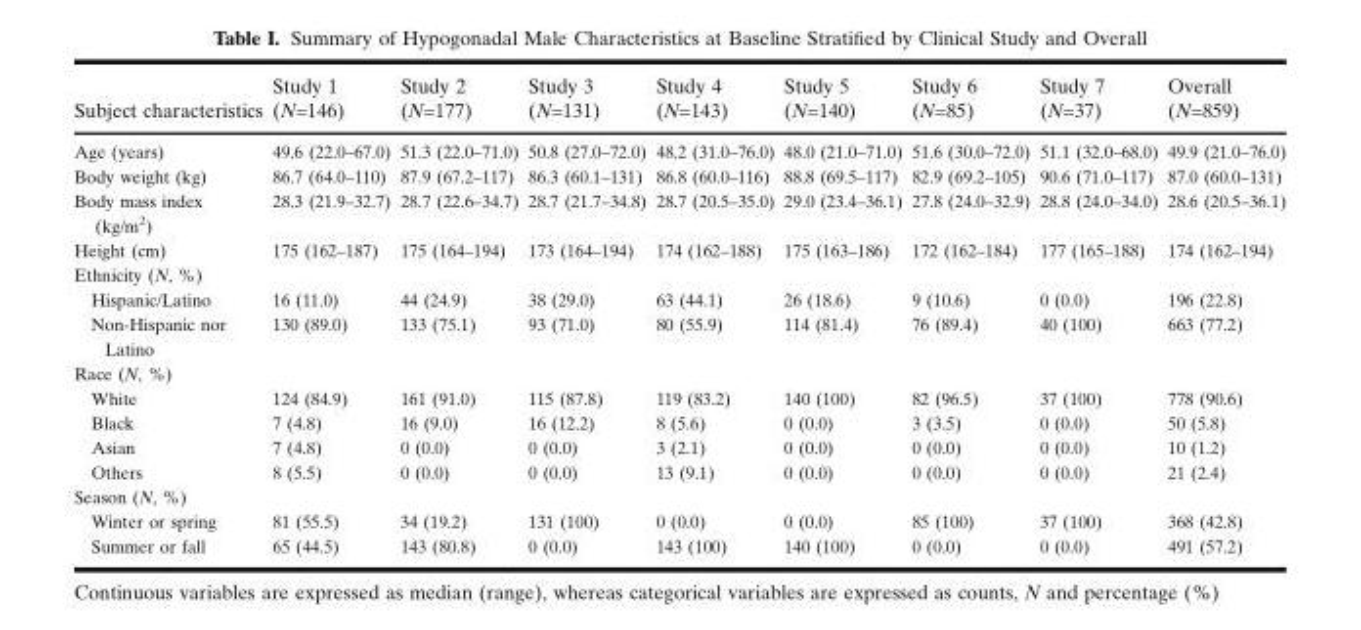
<table><thead><tr><td>Subject characteristics</td><td>Study 1 (N=146)</td><td>Study 2 (N=177)</td><td>Study 3 (N=131)</td><td>Study 4 (N=143)</td><td>Study 5 (N=140)</td><td>Study 6 (N=85)</td><td>Study 7 (N=37)</td><td>Overall (N=859)</td></tr></thead><tbody><tr><td>Age (years)</td><td>49.6 (22.0–67.0)</td><td>51.3 (22.0–71.0)</td><td>50.8 (27.0–72.0)</td><td>48.2 (31.0–76.0)</td><td>48.0 (21.0–71.0)</td><td>51.6 (30.0–72.0)</td><td>51.1 (32.0–68.0)</td><td>49.9 (21.0–76.0)</td></tr><tr><td>Body weight (kg)</td><td>86.7 (64.0–110)</td><td>87.9 (67.2–117)</td><td>86.3 (60.1–131)</td><td>86.8 (60.0–116)</td><td>88.8 (69.5–117)</td><td>82.9 (69.2–105)</td><td>90.6 (71.0–117)</td><td>87.0 (60.0–131)</td></tr><tr><td>Body mass index (kg/m<sup>2</sup>)</td><td>28.3 (21.9–32.7)</td><td>28.7 (22.6–34.7)</td><td>28.7 (21.7–34.8)</td><td>28.7 (20.5–35.0)</td><td>29.0 (23.4–36.1)</td><td>27.8 (24.0–32.9)</td><td>28.8 (24.0–34.0)</td><td>28.6 (20.5–36.1)</td></tr><tr><td>Height (cm)</td><td>175 (162–187)</td><td>175 (164–194)</td><td>173 (164–194)</td><td>174 (162–188)</td><td>175 (163–186)</td><td>172 (162–184)</td><td>177 (165–188)</td><td>174 (162–194)</td></tr><tr><td colspan="9">Ethnicity (N, %)</td></tr><tr><td>Hispanic/Latino</td><td>16 (11.0)</td><td>44 (24.9)</td><td>38 (29.0)</td><td>63 (44.1)</td><td>26 (18.6)</td><td>9 (10.6)</td><td>0 (0.0)</td><td>196 (22.8)</td></tr><tr><td>Non-Hispanic nor Latino</td><td>130 (89.0)</td><td>133 (75.1)</td><td>93 (71.0)</td><td>80 (55.9)</td><td>114 (81.4)</td><td>76 (89.4)</td><td>40 (100)</td><td>663 (77.2)</td></tr><tr><td colspan="9">Race (N, %)</td></tr><tr><td>White</td><td>124 (84.9)</td><td>161 (91.0)</td><td>115 (87.8)</td><td>119 (83.2)</td><td>140 (100)</td><td>82 (96.5)</td><td>37 (100)</td><td>778 (90.6)</td></tr><tr><td>Black</td><td>7 (4.8)</td><td>16 (9.0)</td><td>16 (12.2)</td><td>8 (5.6)</td><td>0 (0.0)</td><td>3 (3.5)</td><td>0 (0.0)</td><td>50 (5.8)</td></tr><tr><td>Asian</td><td>7 (4.8)</td><td>0 (0.0)</td><td>0 (0.0)</td><td>3 (2.1)</td><td>0 (0.0)</td><td>0 (0.0)</td><td>0 (0.0)</td><td>10 (1.2)</td></tr><tr><td>Others</td><td>8 (5.5)</td><td>0 (0.0)</td><td>0 (0.0)</td><td>13 (9.1)</td><td>0 (0.0)</td><td>0 (0.0)</td><td>0 (0.0)</td><td>21 (2.4)</td></tr><tr><td colspan="9">Season (N, %)</td></tr><tr><td>Winter or spring</td><td>81 (55.5)</td><td>34 (19.2)</td><td>131 (100)</td><td>0 (0.0)</td><td>0 (0.0)</td><td>85 (100)</td><td>37 (100)</td><td>368 (42.8)</td></tr><tr><td>Summer or fall</td><td>65 (44.5)</td><td>143 (80.8)</td><td>0 (0.0)</td><td>143 (100)</td><td>140 (100)</td><td>0 (0.0)</td><td>0 (0.0)</td><td>491 (57.2)</td></tr></tbody></table>